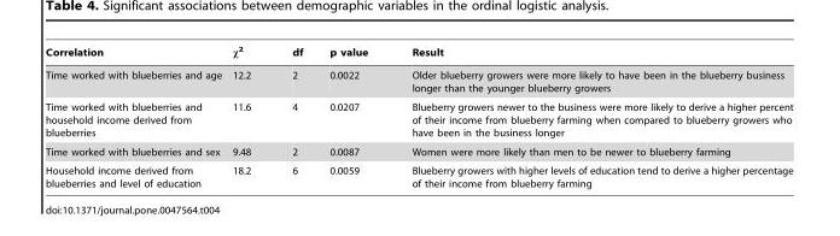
<table><thead><tr><td>Correlation</td><td>x2</td><td>df</td><td>p value</td><td>Result</td></tr></thead><tbody><tr><td>Time worked with blueberries and age</td><td>12.2</td><td>2</td><td>0.0022</td><td>Older blueberry growers were more likely to have been in the blueberry business longer than the younger blueberry growers</td></tr><tr><td>Time worked with blueberries and household income derived from blueberries</td><td>11.6</td><td>4</td><td>0.0207</td><td>Blueberry growers newer to the business were more likely to derive a higher percent of their income from blueberry farming when compared to blueberry growers who have been in the business longer</td></tr><tr><td>Time worked with blueberries and sex</td><td>9.48</td><td>2</td><td>0.0087</td><td>Women were more likely than men to be newer to blueberry farming</td></tr><tr><td>Household income derived from blueberries and level of education</td><td>18.2</td><td>6</td><td>0.0059</td><td>Blueberry growers with higher levels of education tend to derive a higher percentage of their income from blueberry farming</td></tr></tbody></table>